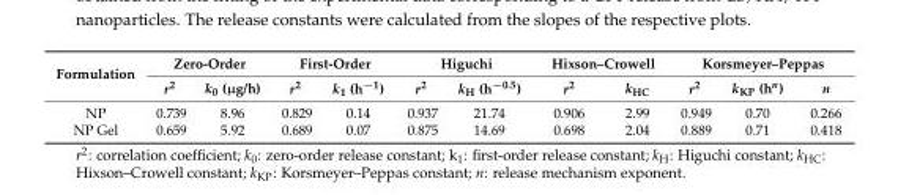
<table><thead><tr><td rowspan="2">Formulation</td><td colspan="2">Zero-Order</td><td colspan="2">First-Order</td><td colspan="2">Higuchi</td><td colspan="2">Hixson–Crowell</td><td colspan="3">Korsmeyer–Peppas</td></tr><tr><td>r<sup>2</sup></td><td>k<sub>0</sub> (µg/h)</td><td>r<sup>2</sup></td><td>k<sub>1</sub> (h<sup>−1</sup>)</td><td>r<sup>2</sup></td><td>k<sub>H</sub> (h<sup>−0.5</sup>)</td><td>r<sup>2</sup></td><td>k<sub>HC</sub></td><td>r<sup>2</sup></td><td>k<sub>KP</sub> (h<sup>n</sup>)</td><td>n</td></tr></thead><tbody><tr><td>NP</td><td>0.739</td><td>8.96</td><td>0.829</td><td>0.14</td><td>0.937</td><td>21.74</td><td>0.906</td><td>2.99</td><td>0.949</td><td>0.70</td><td>0.266</td></tr><tr><td>NP Gel</td><td>0.659</td><td>5.92</td><td>0.689</td><td>0.07</td><td>0.875</td><td>14.69</td><td>0.698</td><td>2.04</td><td>0.889</td><td>0.71</td><td>0.418</td></tr></tbody></table>